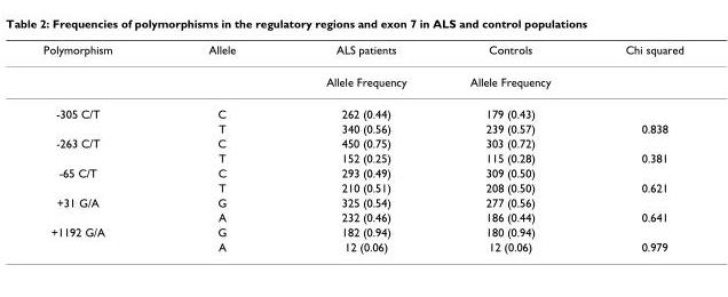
<table><thead><tr><td>Polymorphism</td><td>Allele</td><td>ALS patients</td><td>Controls</td><td>Chi squared</td></tr></thead><tbody><tr><td></td><td></td><td>Allele Frequency</td><td>Allele Frequency</td><td></td></tr><tr><td rowspan="2">-305 C/T</td><td>C</td><td>262 (0.44)</td><td>179 (0.43)</td><td></td></tr><tr><td>T</td><td>340 (0.56)</td><td>239 (0.57)</td><td>0.838</td></tr><tr><td rowspan="2">-263 C/T</td><td>C</td><td>450 (0.75)</td><td>303 (0.72)</td><td></td></tr><tr><td>T</td><td>152 (0.25)</td><td>115 (0.28)</td><td>0.381</td></tr><tr><td rowspan="2">-65 C/T</td><td>C</td><td>293 (0.49)</td><td>309 (0.50)</td><td></td></tr><tr><td>T</td><td>210 (0.51)</td><td>208 (0.50)</td><td>0.621</td></tr><tr><td rowspan="2">+31 G/A</td><td>G</td><td>325 (0.54)</td><td>277 (0.56)</td><td></td></tr><tr><td>A</td><td>232 (0.46)</td><td>186 (0.44)</td><td>0.641</td></tr><tr><td rowspan="2">+1192 G/A</td><td>G</td><td>182 (0.94)</td><td>180 (0.94)</td><td></td></tr><tr><td>A</td><td>12 (0.06)</td><td>12 (0.06)</td><td>0.979</td></tr></tbody></table>